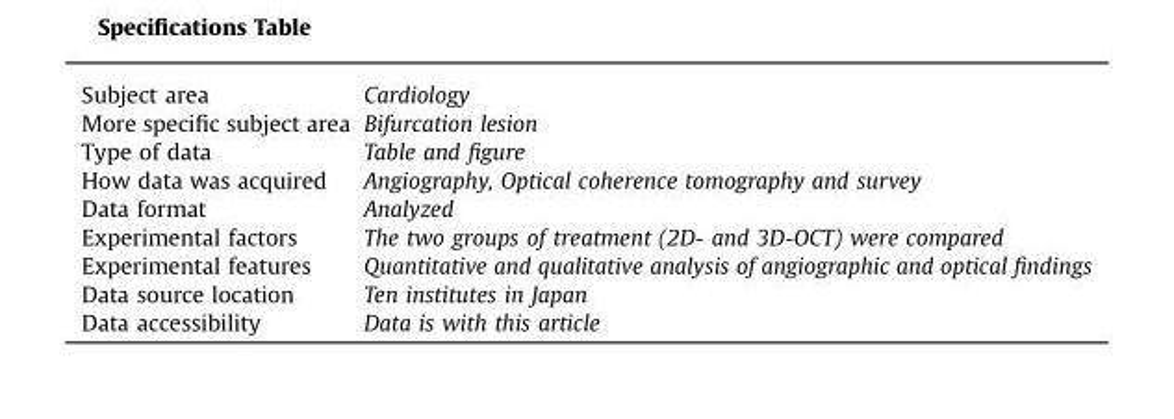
<table><tbody><tr><td>Subject area</td><td>Cardiology</td></tr><tr><td>More specific subject area</td><td>Bifurcation lesion</td></tr><tr><td>Type of data</td><td>Table and figure</td></tr><tr><td>How data was acquired</td><td>Angiography, Optical coherence tomography and survey</td></tr><tr><td>Data format</td><td>Analyzed</td></tr><tr><td>Experimental factors</td><td>The two groups of treatment (2D- and 3D-OCT) were compared</td></tr><tr><td>Experimental features</td><td>Quantitative and qualitative analysis of angiographic and optical findings</td></tr><tr><td>Data source location</td><td>Ten institutes in Japan</td></tr><tr><td>Data accessibility</td><td>Data is with this article</td></tr></tbody></table>